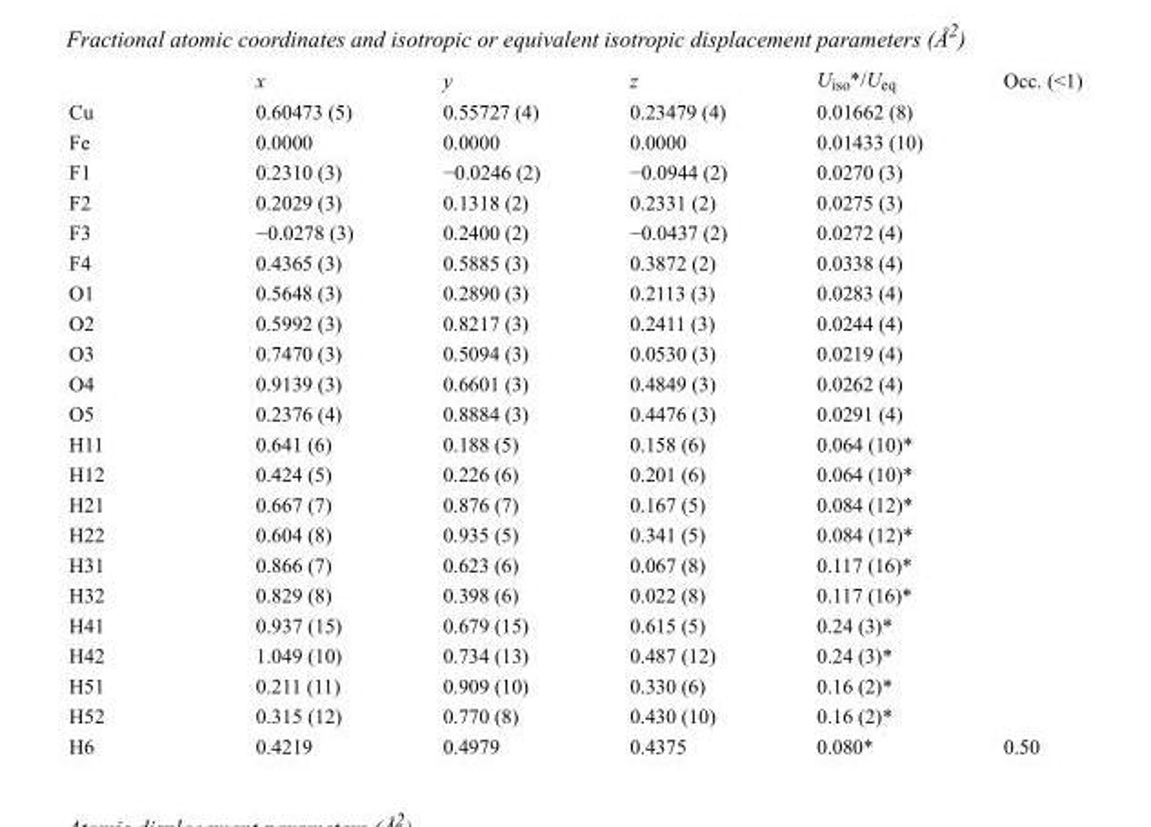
<table><thead><tr><td></td><td>x</td><td>y</td><td>z</td><td>U<sub>iso</sub>*/U<sub>eq</sub></td><td>Occ. (&lt;1)</td></tr></thead><tbody><tr><td>Cu</td><td>0.60473 (5)</td><td>0.55727 (4)</td><td>0.23479 (4)</td><td>0.01662 (8)</td><td></td></tr><tr><td>Fe</td><td>0.0000</td><td>0.0000</td><td>0.0000</td><td>0.01433 (10)</td><td></td></tr><tr><td>F1</td><td>0.2310 (3)</td><td>−0.0246 (2)</td><td>−0.0944 (2)</td><td>0.0270 (3)</td><td></td></tr><tr><td>F2</td><td>0.2029 (3)</td><td>0.1318 (2)</td><td>0.2331 (2)</td><td>0.0275 (3)</td><td></td></tr><tr><td>F3</td><td>−0.0278 (3)</td><td>0.2400 (2)</td><td>−0.0437 (2)</td><td>0.0272 (4)</td><td></td></tr><tr><td>F4</td><td>0.4365 (3)</td><td>0.5885 (3)</td><td>0.3872 (2)</td><td>0.0338 (4)</td><td></td></tr><tr><td>O1</td><td>0.5648 (3)</td><td>0.2890 (3)</td><td>0.2113 (3)</td><td>0.0283 (4)</td><td></td></tr><tr><td>O2</td><td>0.5992 (3)</td><td>0.8217 (3)</td><td>0.2411 (3)</td><td>0.0244 (4)</td><td></td></tr><tr><td>O3</td><td>0.7470 (3)</td><td>0.5094 (3)</td><td>0.0530 (3)</td><td>0.0219 (4)</td><td></td></tr><tr><td>O4</td><td>0.9139 (3)</td><td>0.6601 (3)</td><td>0.4849 (3)</td><td>0.0262 (4)</td><td></td></tr><tr><td>O5</td><td>0.2376 (4)</td><td>0.8884 (3)</td><td>0.4476 (3)</td><td>0.0291 (4)</td><td></td></tr><tr><td>H11</td><td>0.641 (6)</td><td>0.188 (5)</td><td>0.158 (6)</td><td>0.064 (10)*</td><td></td></tr><tr><td>H12</td><td>0.424 (5)</td><td>0.226 (6)</td><td>0.201 (6)</td><td>0.064 (10)*</td><td></td></tr><tr><td>H21</td><td>0.667 (7)</td><td>0.876 (7)</td><td>0.167 (5)</td><td>0.084 (12)*</td><td></td></tr><tr><td>H22</td><td>0.604 (8)</td><td>0.935 (5)</td><td>0.341 (5)</td><td>0.084 (12)*</td><td></td></tr><tr><td>H31</td><td>0.866 (7)</td><td>0.623 (6)</td><td>0.067 (8)</td><td>0.117 (16)*</td><td></td></tr><tr><td>H32</td><td>0.829 (8)</td><td>0.398 (6)</td><td>0.022 (8)</td><td>0.117 (16)*</td><td></td></tr><tr><td>H41</td><td>0.937 (15)</td><td>0.679 (15)</td><td>0.615 (5)</td><td>0.24 (3)*</td><td></td></tr><tr><td>H42</td><td>1.049 (10)</td><td>0.734 (13)</td><td>0.487 (12)</td><td>0.24 (3)*</td><td></td></tr><tr><td>H51</td><td>0.211 (11)</td><td>0.909 (10)</td><td>0.330 (6)</td><td>0.16 (2)*</td><td></td></tr><tr><td>H52</td><td>0.315 (12)</td><td>0.770 (8)</td><td>0.430 (10)</td><td>0.16 (2)*</td><td></td></tr><tr><td>H6</td><td>0.4219</td><td>0.4979</td><td>0.4375</td><td>0.080*</td><td>0.50</td></tr></tbody></table>